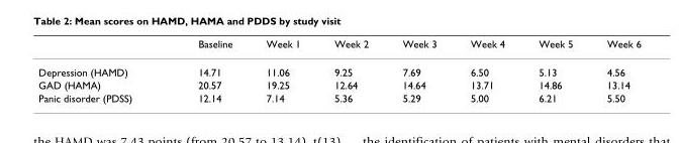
<table><thead><tr><td></td><td>Baseline</td><td>Week 1</td><td>Week 2</td><td>Week 3</td><td>Week 4</td><td>Week 5</td><td>Week 6</td></tr></thead><tbody><tr><td>Depression (HAMD)</td><td>14.71</td><td>11.06</td><td>9.25</td><td>7.69</td><td>6.50</td><td>5.13</td><td>4.56</td></tr><tr><td>GAD (HAMA)</td><td>20.57</td><td>19.25</td><td>12.64</td><td>14.64</td><td>13.71</td><td>14.86</td><td>13.14</td></tr><tr><td>Panic disorder (PDSS)</td><td>12.14</td><td>7.14</td><td>5.36</td><td>5.29</td><td>5.00</td><td>6.21</td><td>5.50</td></tr></tbody></table>